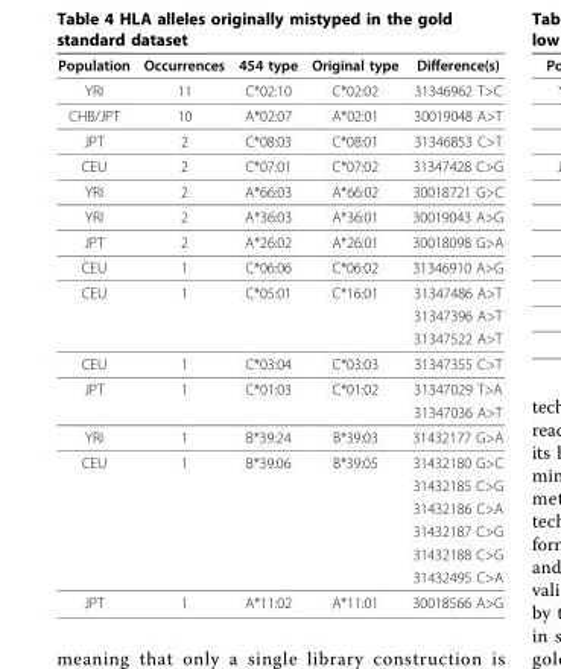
<table><thead><tr><td>Population</td><td>Occurrences</td><td>454 type</td><td>Original type</td><td>Difference(s)</td></tr></thead><tbody><tr><td>YRI</td><td>11</td><td>C*02:10</td><td>C*02:02</td><td>31346962 T&gt;C</td></tr><tr><td>CHB/JPT</td><td>10</td><td>A*02:07</td><td>A*02:01</td><td>30019048 A&gt;T</td></tr><tr><td>JPT</td><td>2</td><td>C*08:03</td><td>C*08:01</td><td>31346853 C&gt;T</td></tr><tr><td>CEU</td><td>2</td><td>C*07:01</td><td>C*07:02</td><td>31347428 C&gt;G</td></tr><tr><td>YRI</td><td>2</td><td>A*66:03</td><td>A*66:02</td><td>30018721 G&gt;C</td></tr><tr><td>YRI</td><td>2</td><td>A*36:03</td><td>A*36:01</td><td>30019043 A&gt;G</td></tr><tr><td>JPT</td><td>2</td><td>A*26:02</td><td>A*26:01</td><td>30018098 G&gt;A</td></tr><tr><td>CEU</td><td>1</td><td>C*06:06</td><td>C*06:02</td><td>31346910 A&gt;G</td></tr><tr><td rowspan="3">CEU</td><td>1</td><td>C*05:01</td><td>C*16:01</td><td>31347486 A&gt;T</td></tr><tr><td></td><td></td><td></td><td>31347396 A&gt;T</td></tr><tr><td></td><td></td><td></td><td>31347522 A&gt;T</td></tr><tr><td>CEU</td><td>1</td><td>C*03:04</td><td>C*03:03</td><td>31347355 C&gt;T</td></tr><tr><td rowspan="2">JPT</td><td>1</td><td>C*01:03</td><td>C*01:02</td><td>31347029 T&gt;A</td></tr><tr><td></td><td></td><td></td><td>31347036 A&gt;T</td></tr><tr><td>YRI</td><td>1</td><td>B*39:24</td><td>B*39:03</td><td>31432177 G&gt;A</td></tr><tr><td rowspan="6">CEU</td><td>1</td><td>B*39:06</td><td>B*39:05</td><td>31432180 G&gt;C</td></tr><tr><td></td><td></td><td></td><td>31432185 C&gt;G</td></tr><tr><td></td><td></td><td></td><td>31432186 C&gt;A</td></tr><tr><td></td><td></td><td></td><td>31432187 C&gt;G</td></tr><tr><td></td><td></td><td></td><td>31432188 C&gt;G</td></tr><tr><td></td><td></td><td></td><td>31432495 C&gt;A</td></tr><tr><td>JPT</td><td>1</td><td>A*11:02</td><td>A*11:01</td><td>30018566 A&gt;G</td></tr></tbody></table>